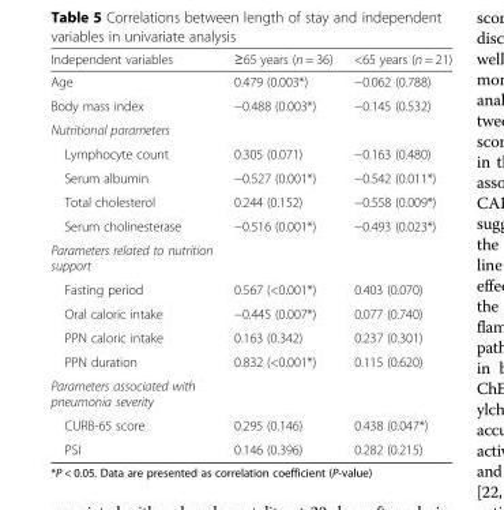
<table><thead><tr><td>Independent variables</td><td>≥65 years (n = 36)</td><td>&lt;65 years (n = 21)</td></tr></thead><tbody><tr><td>Age</td><td>0.479 (0.003*)</td><td>−0.062 (0.788)</td></tr><tr><td>Body mass index</td><td>−0.488 (0.003*)</td><td>−0.145 (0.532)</td></tr><tr><td colspan="3">Nutritional parameters</td></tr><tr><td>Lymphocyte count</td><td>0.305 (0.071)</td><td>−0.163 (0.480)</td></tr><tr><td>Serum albumin</td><td>−0.527 (0.001*)</td><td>−0.542 (0.011*)</td></tr><tr><td>Total cholesterol</td><td>0.244 (0.152)</td><td>−0.558 (0.009*)</td></tr><tr><td>Serum cholinesterase</td><td>−0.516 (0.001*)</td><td>−0.493 (0.023*)</td></tr><tr><td colspan="3">Parameters related to nutrition support</td></tr><tr><td>Fasting period</td><td>0.567 (&lt;0.001*)</td><td>0.403 (0.070)</td></tr><tr><td>Oral caloric intake</td><td>−0.445 (0.007*)</td><td>0.077 (0.740)</td></tr><tr><td>PPN caloric intake</td><td>0.163 (0.342)</td><td>0.237 (0.301)</td></tr><tr><td>PPN duration</td><td>0.832 (&lt;0.001*)</td><td>0.115 (0.620)</td></tr><tr><td colspan="3">Parameters associated with pneumonia severity</td></tr><tr><td>CURB-65 score</td><td>0.295 (0.146)</td><td>0.438 (0.047*)</td></tr><tr><td>PSI</td><td>0.146 (0.396)</td><td>0.282 (0.215)</td></tr></tbody></table>